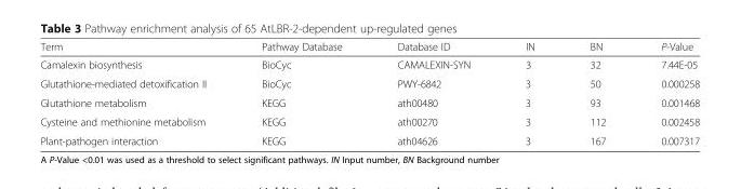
<table><thead><tr><td>Term</td><td>Pathway Database</td><td>Database ID</td><td>IN</td><td>BN</td><td>P-Value</td></tr></thead><tbody><tr><td>Camalexin biosynthesis</td><td>BioCyc</td><td>CAMALEXIN-SYN</td><td>3</td><td>32</td><td>7.44E-05</td></tr><tr><td>Glutathione-mediated detoxification II</td><td>BioCyc</td><td>PWY-6842</td><td>3</td><td>50</td><td>0.000258</td></tr><tr><td>Glutathione metabolism</td><td>KEGG</td><td>ath00480</td><td>3</td><td>93</td><td>0.001468</td></tr><tr><td>Cysteine and methionine metabolism</td><td>KEGG</td><td>ath00270</td><td>3</td><td>112</td><td>0.002458</td></tr><tr><td>Plant-pathogen interaction</td><td>KEGG</td><td>ath04626</td><td>3</td><td>167</td><td>0.007317</td></tr></tbody></table>